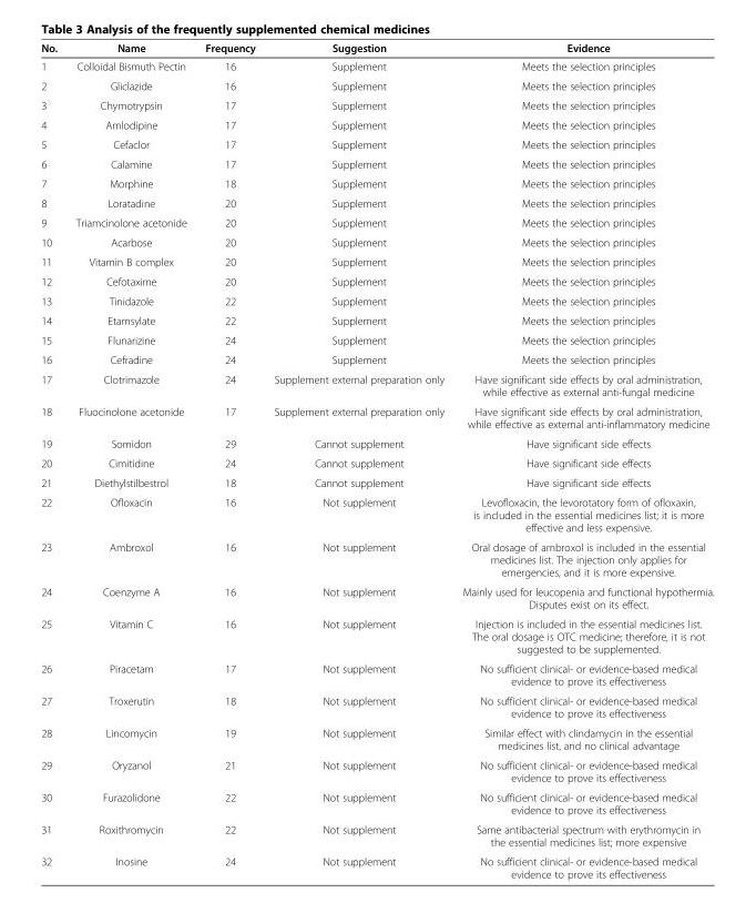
<table><thead><tr><td>No.</td><td>Name</td><td>Frequency</td><td>Suggestion</td><td>Evidence</td></tr></thead><tbody><tr><td>1</td><td>Colloidal Bismuth Pectin</td><td>16</td><td>Supplement</td><td>Meets the selection principles</td></tr><tr><td>2</td><td>Gliclazide</td><td>16</td><td>Supplement</td><td>Meets the selection principles</td></tr><tr><td>3</td><td>Chymotrypsin</td><td>17</td><td>Supplement</td><td>Meets the selection principles</td></tr><tr><td>4</td><td>Amlodipine</td><td>17</td><td>Supplement</td><td>Meets the selection principles</td></tr><tr><td>5</td><td>Cefaclor</td><td>17</td><td>Supplement</td><td>Meets the selection principles</td></tr><tr><td>6</td><td>Calamine</td><td>17</td><td>Supplement</td><td>Meets the selection principles</td></tr><tr><td>7</td><td>Morphine</td><td>18</td><td>Supplement</td><td>Meets the selection principles</td></tr><tr><td>8</td><td>Loratadine</td><td>20</td><td>Supplement</td><td>Meets the selection principles</td></tr><tr><td>9</td><td>Triamcinolone acetonide</td><td>20</td><td>Supplement</td><td>Meets the selection principles</td></tr><tr><td>10</td><td>Acarbose</td><td>20</td><td>Supplement</td><td>Meets the selection principles</td></tr><tr><td>11</td><td>Vitamin B complex</td><td>20</td><td>Supplement</td><td>Meets the selection principles</td></tr><tr><td>12</td><td>Cefotaxime</td><td>20</td><td>Supplement</td><td>Meets the selection principles</td></tr><tr><td>13</td><td>Tinidazole</td><td>22</td><td>Supplement</td><td>Meets the selection principles</td></tr><tr><td>14</td><td>Etamsylate</td><td>22</td><td>Supplement</td><td>Meets the selection principles</td></tr><tr><td>15</td><td>Flunarizine</td><td>24</td><td>Supplement</td><td>Meets the selection principles</td></tr><tr><td>16</td><td>Cefradine</td><td>24</td><td>Supplement</td><td>Meets the selection principles</td></tr><tr><td>17</td><td>Clotrimazole</td><td>24</td><td>Supplement external preparation only</td><td>Have significant side effects by oral administration, while effective as external anti-fungal medicine</td></tr><tr><td>18</td><td>Fluocinolone acetonide</td><td>17</td><td>Supplement external preparation only</td><td>Have significant side effects by oral administration, while effective as external anti-inflammatory medicine</td></tr><tr><td>19</td><td>Somidon</td><td>29</td><td>Cannot supplement</td><td>Have significant side effects</td></tr><tr><td>20</td><td>Cimitidine</td><td>24</td><td>Cannot supplement</td><td>Have significant side effects</td></tr><tr><td>21</td><td>Diethylstilbestrol</td><td>18</td><td>Cannot supplement</td><td>Have significant side effects</td></tr><tr><td>22</td><td>Ofloxacin</td><td>16</td><td>Not supplement</td><td>Levofloxacin, the levorotatory form of ofloxaxin, is included in the essential medicines list; it is more effective and less expensive.</td></tr><tr><td>23</td><td>Ambroxol</td><td>16</td><td>Not supplement</td><td>Oral dosage of ambroxol is included in the essential medicines list. The injection only applies for emergencies, and it is more expensive.</td></tr><tr><td>24</td><td>Coenzyme A</td><td>16</td><td>Not supplement</td><td>Mainly used for leucopenia and functional hypothermia. Disputes exist on its effect.</td></tr><tr><td>25</td><td>Vitamin C</td><td>16</td><td>Not supplement</td><td>Injection is included in the essential medicines list. The oral dosage is OTC medicine; therefore, it is not suggested to be supplemented.</td></tr><tr><td>26</td><td>Piracetam</td><td>17</td><td>Not supplement</td><td>No sufficient clinical- or evidence-based medical evidence to prove its effectiveness</td></tr><tr><td>27</td><td>Troxerutin</td><td>18</td><td>Not supplement</td><td>No sufficient clinical- or evidence-based medical evidence to prove its effectiveness</td></tr><tr><td>28</td><td>Lincomycin</td><td>19</td><td>Not supplement</td><td>Similar effect with clindamycin in the essential medicines list, and no clinical advantage</td></tr><tr><td>29</td><td>Oryzanol</td><td>21</td><td>Not supplement</td><td>No sufficient clinical- or evidence-based medical evidence to prove its effectiveness</td></tr><tr><td>30</td><td>Furazolidone</td><td>22</td><td>Not supplement</td><td>No sufficient clinical- or evidence-based medical evidence to prove its effectiveness</td></tr><tr><td>31</td><td>Roxithromycin</td><td>22</td><td>Not supplement</td><td>Same antibacterial spectrum with erythromycin in the essential medicines list; more expensive</td></tr><tr><td>32</td><td>Inosine</td><td>24</td><td>Not supplement</td><td>No sufficient clinical- or evidence-based medical evidence to prove its effectiveness</td></tr></tbody></table>